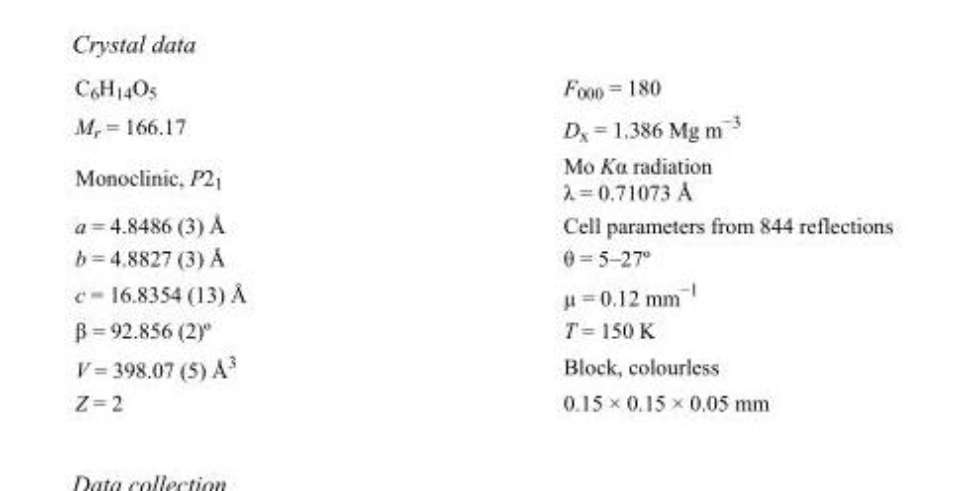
<table><tbody><tr><td>C<sub>6</sub>H<sub>14</sub>O<sub>5</sub></td><td>F<sub>000</sub> = 180</td></tr><tr><td>M<sub>r</sub> = 166.17</td><td>D<sub>x</sub> = 1.386 Mg m<sup>−3</sup></td></tr><tr><td>Monoclinic, P2<sub>1</sub></td><td>Mo Kα radiation λ = 0.71073 Å</td></tr><tr><td>a = 4.8486 (3) Å</td><td>Cell parameters from 844 reflections</td></tr><tr><td>b = 4.8827 (3) Å</td><td>θ = 5–27º</td></tr><tr><td>c = 16.8354 (13) Å</td><td>µ = 0.12 mm<sup>−1</sup></td></tr><tr><td>β = 92.856 (2)º</td><td>T = 150 K</td></tr><tr><td>V = 398.07 (5) Å<sup>3</sup></td><td>Block, colourless</td></tr><tr><td>Z = 2</td><td>0.15 × 0.15 × 0.05 mm</td></tr></tbody></table>